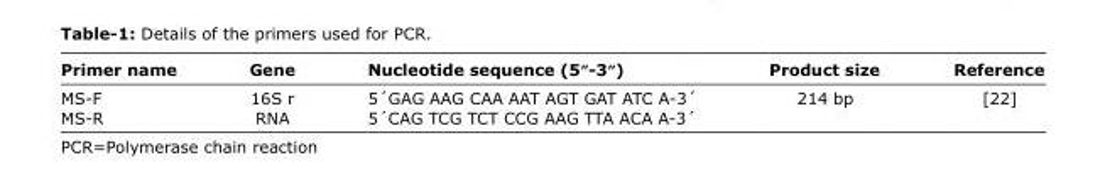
<table><thead><tr><td>Primer name</td><td>Gene</td><td>Nucleotide sequence (5ʺ-3ʺ)</td><td>Product size</td><td>Reference</td></tr></thead><tbody><tr><td>MS-F MS-R</td><td>16S r RNA</td><td>5´GAG AAG CAA AAT AGT GAT ATC A-3´ 5´CAG TCG TCT CCG AAG TTA ACA A-3´</td><td>214 bp</td><td>[22]</td></tr></tbody></table>